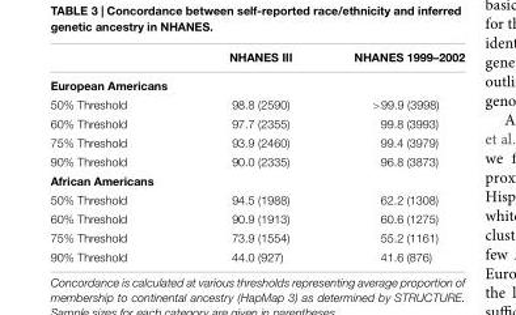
<table><thead><tr><td></td><td>NHANES III</td><td>NHANES 1999–2002</td></tr></thead><tbody><tr><td colspan="3">European Americans</td></tr><tr><td>50% Threshold</td><td>98.8 (2590)</td><td>&gt;99.9 (3998)</td></tr><tr><td>60% Threshold</td><td>97.7 (2355)</td><td>99.8 (3993)</td></tr><tr><td>75% Threshold</td><td>93.9 (2460)</td><td>99.4 (3979)</td></tr><tr><td>90% Threshold</td><td>90.0 (2335)</td><td>96.8 (3873)</td></tr><tr><td colspan="3">African Americans</td></tr><tr><td>50% Threshold</td><td>94.5 (1988)</td><td>62.2 (1308)</td></tr><tr><td>60% Threshold</td><td>90.9 (1913)</td><td>60.6 (1275)</td></tr><tr><td>75% Threshold</td><td>73.9 (1554)</td><td>55.2 (1161)</td></tr><tr><td>90% Threshold</td><td>44.0 (927)</td><td>41.6 (876)</td></tr></tbody></table>